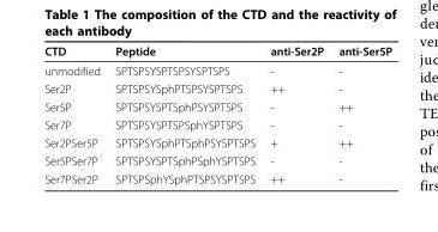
<table><thead><tr><td>CTD</td><td>Peptide</td><td>anti-Ser2P</td><td>anti-Ser5P</td></tr></thead><tbody><tr><td>unmodified</td><td>SPTSPSYSPTSPSYSPTSPS</td><td>-</td><td>-</td></tr><tr><td>Ser2P</td><td>SPTSPSYSphPTSPSYSPTSPS</td><td>++</td><td>-</td></tr><tr><td>Ser5P</td><td>SPTSPSYSPTSphPSYSPTSPS</td><td>-</td><td>++</td></tr><tr><td>Ser7P</td><td>SPTSPSYSPTSPSphYSPTSPS</td><td>-</td><td>-</td></tr><tr><td>Ser2PSer5P</td><td>SPTSPSYSphPTSphPSYSPTSPS</td><td>+</td><td>++</td></tr><tr><td>Ser5PSer7P</td><td>SPTSPSYSPTSphPSphYSPTSPS</td><td>-</td><td>-</td></tr><tr><td>Ser7PSer2P</td><td>SPTSPSphYSphPTSPSYSPTSPS</td><td>++</td><td>-</td></tr></tbody></table>